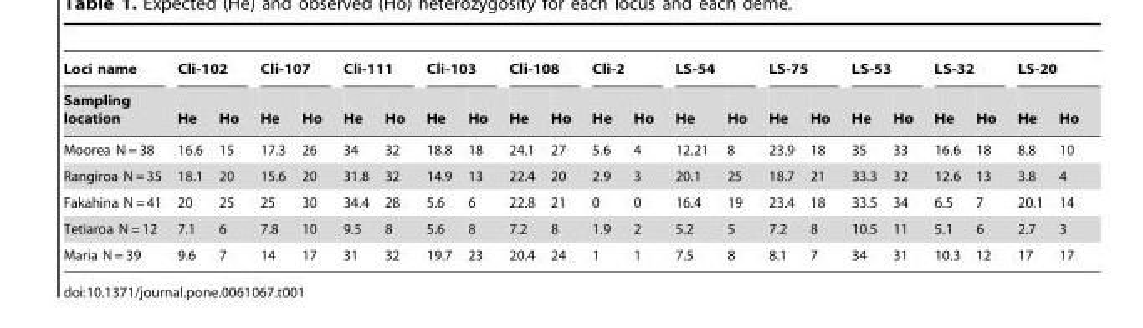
<table><thead><tr><td rowspan="2">Loci name Sampling location</td><td colspan="2">Cli-102</td><td colspan="2">Cli-107</td><td colspan="2">Cli-111</td><td colspan="2">Cli-103</td><td colspan="2">Cli-108</td><td colspan="2">Cli-2</td><td colspan="2">LS-54</td><td colspan="2">LS-75</td><td colspan="2">LS-53</td><td colspan="2">LS-32</td><td colspan="2">LS-20</td></tr><tr><td>He</td><td>Ho</td><td>He</td><td>Ho</td><td>He</td><td>Ho</td><td>He</td><td>Ho</td><td>He</td><td>Ho</td><td>He</td><td>Ho</td><td>He</td><td>Ho</td><td>He</td><td>Ho</td><td>He</td><td>Ho</td><td>He</td><td>Ho</td><td>He</td><td>Ho</td></tr></thead><tbody><tr><td>Moorea N = 38</td><td>16.6</td><td>15</td><td>17.3</td><td>26</td><td>34</td><td>32</td><td>18.8</td><td>18</td><td>24.1</td><td>27</td><td>5.6</td><td>4</td><td>12.21</td><td>8</td><td>23.9</td><td>18</td><td>35</td><td>33</td><td>16.6</td><td>18</td><td>8.8</td><td>10</td></tr><tr><td>Rangiroa N = 35</td><td>18.1</td><td>20</td><td>15.6</td><td>20</td><td>31.8</td><td>32</td><td>14.9</td><td>13</td><td>22.4</td><td>20</td><td>2.9</td><td>3</td><td>20.1</td><td>25</td><td>18.7</td><td>21</td><td>33.3</td><td>32</td><td>12.6</td><td>13</td><td>3.8</td><td>4</td></tr><tr><td>Fakahina N = 41</td><td>20</td><td>25</td><td>25</td><td>30</td><td>34.4</td><td>28</td><td>5.6</td><td>6</td><td>22.8</td><td>21</td><td>0</td><td>0</td><td>16.4</td><td>19</td><td>23.4</td><td>18</td><td>33.5</td><td>34</td><td>6.5</td><td>7</td><td>20.1</td><td>14</td></tr><tr><td>Tetiaroa N = 12</td><td>7.1</td><td>6</td><td>7.8</td><td>10</td><td>9.5</td><td>8</td><td>5.6</td><td>8</td><td>7.2</td><td>8</td><td>1.9</td><td>2</td><td>5.2</td><td>5</td><td>7.2</td><td>8</td><td>10.5</td><td>11</td><td>5.1</td><td>6</td><td>2.7</td><td>3</td></tr><tr><td>Maria N = 39</td><td>9.6</td><td>7</td><td>14</td><td>17</td><td>31</td><td>32</td><td>19.7</td><td>23</td><td>20.4</td><td>24</td><td>1</td><td>1</td><td>7.5</td><td>8</td><td>8.1</td><td>7</td><td>34</td><td>31</td><td>10.3</td><td>12</td><td>17</td><td>17</td></tr></tbody></table>